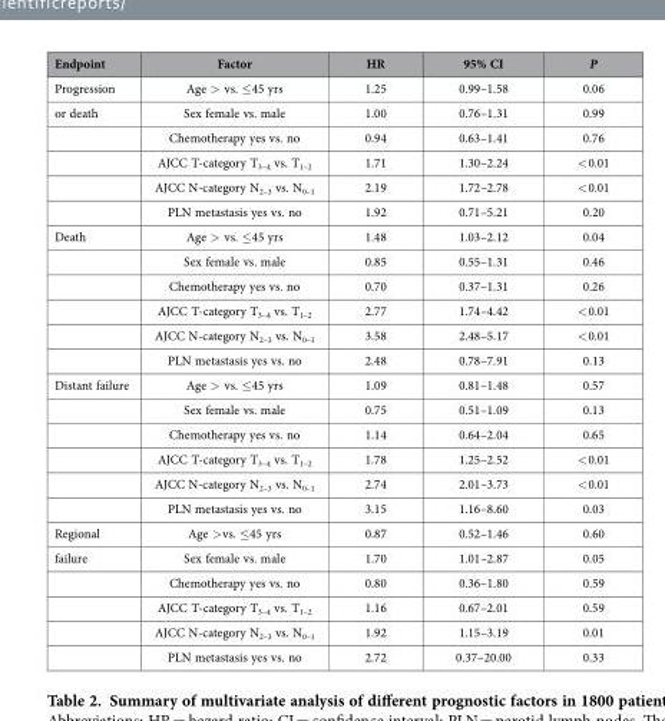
<table><thead><tr><td>Endpoint</td><td>Factor</td><td>HR</td><td>95% CI</td><td>P</td></tr></thead><tbody><tr><td>Progression</td><td>Age &gt; vs. ≤45 yrs</td><td>1.25</td><td>0.99–1.58</td><td>0.06</td></tr><tr><td rowspan="5">or death</td><td>Sex female vs. male</td><td>1.00</td><td>0.76–1.31</td><td>0.99</td></tr><tr><td>Chemotherapy yes vs. no</td><td>0.94</td><td>0.63–1.41</td><td>0.76</td></tr><tr><td>AJCC T-category T<sub>3–4</sub> vs. T<sub>1–2</sub></td><td>1.71</td><td>1.30–2.24</td><td>&lt; 0.01</td></tr><tr><td>AJCC N-category N<sub>2–3</sub> vs. N<sub>0–1</sub></td><td>2.19</td><td>1.72–2.78</td><td>&lt; 0.01</td></tr><tr><td>PLN metastasis yes vs. no</td><td>1.92</td><td>0.71–5.21</td><td>0.20</td></tr><tr><td rowspan="6">Death</td><td>Age &gt; vs. ≤45 yrs</td><td>1.48</td><td>1.03–2.12</td><td>0.04</td></tr><tr><td>Sex female vs. male</td><td>0.85</td><td>0.55–1.31</td><td>0.46</td></tr><tr><td>Chemotherapy yes vs. no</td><td>0.70</td><td>0.37–1.31</td><td>0.26</td></tr><tr><td>AJCC T-category T<sub>3–4</sub> vs. T<sub>1–2</sub></td><td>2.77</td><td>1.74–4.42</td><td>&lt; 0.01</td></tr><tr><td>AJCC N-category N<sub>2–3</sub> vs. N<sub>0–1</sub></td><td>3.58</td><td>2.48–5.17</td><td>&lt; 0.01</td></tr><tr><td>PLN metastasis yes vs. no</td><td>2.48</td><td>0.78–7.91</td><td>0.13</td></tr><tr><td rowspan="6">Distant failure</td><td>Age &gt; vs. ≤45 yrs</td><td>1.09</td><td>0.81–1.48</td><td>0.57</td></tr><tr><td>Sex female vs. male</td><td>0.75</td><td>0.51–1.09</td><td>0.13</td></tr><tr><td>Chemotherapy yes vs. no</td><td>1.14</td><td>0.64–2.04</td><td>0.65</td></tr><tr><td>AJCC T-category T<sub>3–4</sub> vs. T<sub>1–2</sub></td><td>1.78</td><td>1.25–2.52</td><td>&lt; 0.01</td></tr><tr><td>AJCC N-category N<sub>2–3</sub> vs. N<sub>0–1</sub></td><td>2.74</td><td>2.01–3.73</td><td>&lt; 0.01</td></tr><tr><td>PLN metastasis yes vs. no</td><td>3.15</td><td>1.16–8.60</td><td>0.03</td></tr><tr><td>Regional</td><td>Age &gt; vs. ≤45 yrs</td><td>0.87</td><td>0.52–1.46</td><td>0.60</td></tr><tr><td rowspan="5">failure</td><td>Sex female vs. male</td><td>1.70</td><td>1.01–2.87</td><td>0.05</td></tr><tr><td>Chemotherapy yes vs. no</td><td>0.80</td><td>0.36–1.80</td><td>0.59</td></tr><tr><td>AJCC T-category T<sub>3–4</sub> vs. T<sub>1–2</sub></td><td>1.16</td><td>0.67–2.01</td><td>0.59</td></tr><tr><td>AJCC N-category N<sub>2–3</sub> vs. N<sub>0–1</sub></td><td>1.92</td><td>1.15–3.19</td><td>0.01</td></tr><tr><td>PLN metastasis yes vs. no</td><td>2.72</td><td>0.37–20.00</td><td>0.33</td></tr></tbody></table>